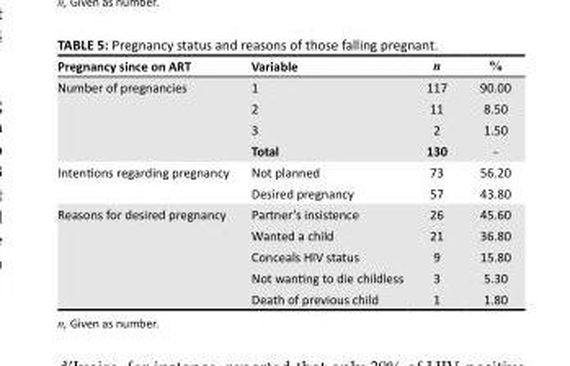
<table><thead><tr><td>Pregnancy since on ART</td><td>Variable</td><td>n</td><td>%</td></tr></thead><tbody><tr><td rowspan="4">Number of pregnancies</td><td>1</td><td>117</td><td>90.00</td></tr><tr><td>2</td><td>11</td><td>8.50</td></tr><tr><td>3</td><td>2</td><td>1.50</td></tr><tr><td>Total</td><td>130</td><td>-</td></tr><tr><td rowspan="2">Intentions regarding pregnancy</td><td>Not planned</td><td>73</td><td>56.20</td></tr><tr><td>Desired pregnancy</td><td>57</td><td>43.80</td></tr><tr><td rowspan="5">Reasons for desired pregnancy</td><td>Partner’s insistence</td><td>26</td><td>45.60</td></tr><tr><td>Wanted a child</td><td>21</td><td>36.80</td></tr><tr><td>Conceals HIV status</td><td>9</td><td>15.80</td></tr><tr><td>Not wanting to die childless</td><td>3</td><td>5.30</td></tr><tr><td>Death of previous child</td><td>1</td><td>1.80</td></tr></tbody></table>